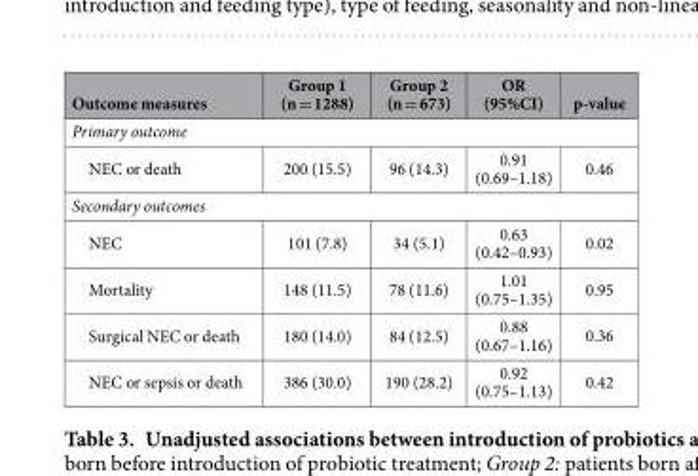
<table><thead><tr><td>Outcome measures</td><td>Group 1 (n = 1288)</td><td>Group 2 (n = 673)</td><td>OR (95%CI)</td><td>p-value</td></tr></thead><tbody><tr><td colspan="5">Primary outcome</td></tr><tr><td>NEC or death</td><td>200 (15.5)</td><td>96 (14.3)</td><td>0.91 (0.69–1.18)</td><td>0.46</td></tr><tr><td colspan="5">Secondary outcomes</td></tr><tr><td>NEC</td><td>101 (7.8)</td><td>34 (5.1)</td><td>0.63 (0.42–0.93)</td><td>0.02</td></tr><tr><td>Mortality</td><td>148 (11.5)</td><td>78 (11.6)</td><td>1.01 (0.75–1.35)</td><td>0.95</td></tr><tr><td>Surgical NEC or death</td><td>180 (14.0)</td><td>84 (12.5)</td><td>0.88 (0.67–1.16)</td><td>0.36</td></tr><tr><td>NEC or sepsis or death</td><td>386 (30.0)</td><td>190 (28.2)</td><td>0.92 (0.75–1.13)</td><td>0.42</td></tr></tbody></table>